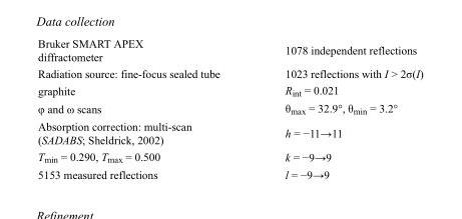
<table><tbody><tr><td>Bruker SMART APEX diffractometer</td><td>1078 independent reflections</td></tr><tr><td>Radiation source: fine-focus sealed tube</td><td>1023 reflections with I &gt; 2σ(I)</td></tr><tr><td>graphite</td><td>R<sub>int</sub> = 0.021</td></tr><tr><td>φ and ω scans</td><td>θ<sub>max</sub> = 32.9°, θ<sub>min</sub> = 3.2°</td></tr><tr><td>Absorption correction: multi-scan (SADABS; Sheldrick, 2002)</td><td>h = −11→11</td></tr><tr><td>T<sub>min</sub> = 0.290, T<sub>max</sub> = 0.500</td><td>k = −9→9</td></tr><tr><td>5153 measured reflections</td><td>l = −9→9</td></tr></tbody></table>